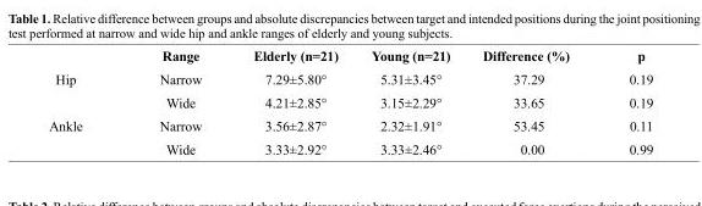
<table><thead><tr><td></td><td>Range</td><td>Elderly (n=21)</td><td>Young (n=21)</td><td>Difference (%)</td><td>p</td></tr></thead><tbody><tr><td rowspan="2">Hip</td><td>Narrow</td><td>7.29±5.80°</td><td>5.31±3.45°</td><td>37.29</td><td>0.19</td></tr><tr><td>Wide</td><td>4.21±2.85°</td><td>3.15±2.29°</td><td>33.65</td><td>0.19</td></tr><tr><td rowspan="2">Ankle</td><td>Narrow</td><td>3.56±2.87°</td><td>2.32±1.91°</td><td>53.45</td><td>0.11</td></tr><tr><td>Wide</td><td>3.33±2.92°</td><td>3.33±2.46°</td><td>0.00</td><td>0.99</td></tr></tbody></table>